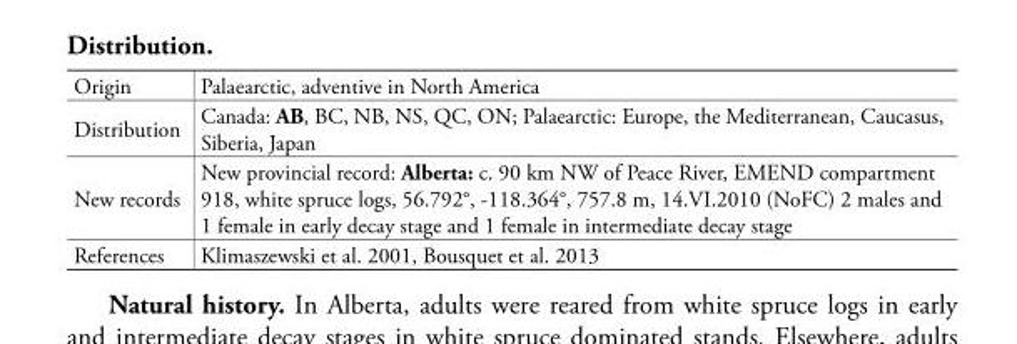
<table><tbody><tr><td>Origin</td><td>Palaearctic, adventive in North America</td></tr><tr><td>Distribution</td><td>Canada: AB, BC, NB, NS, QC, ON; Palaearctic: Europe, the Mediterranean, Caucasus, Siberia, Japan</td></tr><tr><td>New records</td><td>New provincial record: Alberta: c. 90 km NW of Peace River, EMEND compartment 918, white spruce logs, 56.792°, -118.364°, 757.8 m, 14.VI.2010 (NoFC) 2 males and 1 female in early decay stage and 1 female in intermediate decay stage</td></tr><tr><td>References</td><td>Klimaszewski et al. 2001, Bousquet et al. 2013</td></tr></tbody></table>